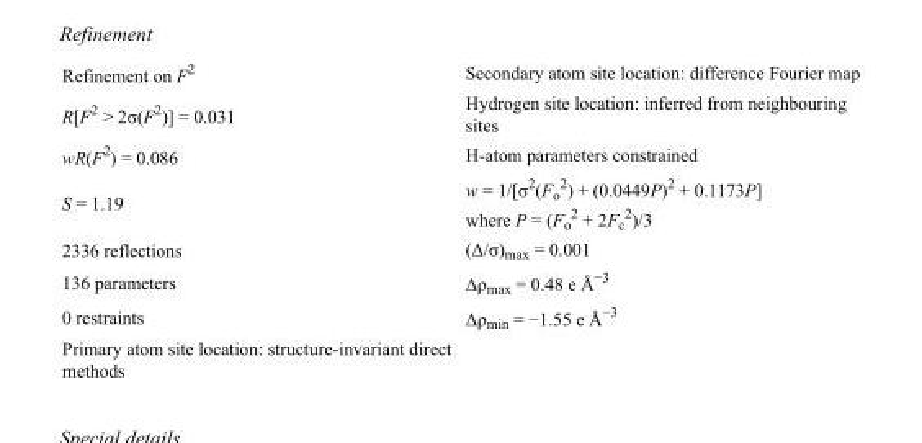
<table><tbody><tr><td>Refinement on F<sup>2</sup></td><td>Secondary atom site location: difference Fourier map</td></tr><tr><td>R[F<sup>2</sup> &gt; 2σ(F<sup>2</sup>)] = 0.031</td><td>Hydrogen site location: inferred from neighbouring sites</td></tr><tr><td>wR(F<sup>2</sup>) = 0.086</td><td>H-atom parameters constrained</td></tr><tr><td>S = 1.19</td><td>w = 1/[σ<sup>2</sup>(F<sub>o</sub> <sup>2</sup>) + (0.0449P)<sup>2</sup> + 0.1173P] where P = (F<sub>o</sub> <sup>2</sup> + 2F<sub>c</sub> <sup>2</sup>)/3</td></tr><tr><td>2336 reflections</td><td>(Δ/σ)<sub>max</sub> = 0.001</td></tr><tr><td>136 parameters</td><td>Δρ<sub>max</sub> = 0.48 e Å<sup>−3</sup></td></tr><tr><td>0 restraints</td><td>Δρ<sub>min</sub> = −1.55 e Å<sup>−3</sup></td></tr><tr><td>Primary atom site location: structure-invariant direct methods</td><td></td></tr></tbody></table>